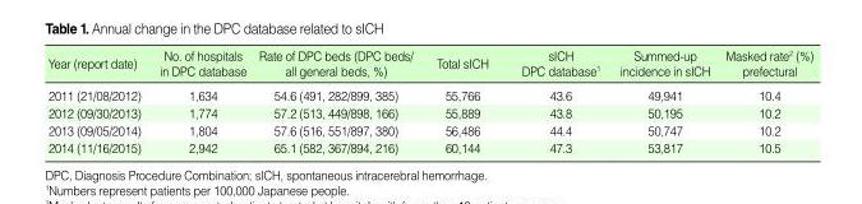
<table><thead><tr><td>Year (report date)</td><td>No. of hospitals in DPC database</td><td>Rate of DPC beds (DPC beds/ all general beds, %)</td><td>Total sICH</td><td>sICH DPC database<sup>1</sup></td><td>Summed-up incidence in sICH</td><td>Masked rate<sup>2</sup> (%) prefectural</td></tr></thead><tbody><tr><td>2011 (21/08/2012)</td><td>1,634</td><td>54.6 (491, 282/899, 385)</td><td>55,766</td><td>43.6</td><td>49,941</td><td>10.4</td></tr><tr><td>2012 (09/30/2013)</td><td>1,774</td><td>57.2 (513, 449/898, 166)</td><td>55,889</td><td>43.8</td><td>50,195</td><td>10.2</td></tr><tr><td>2013 (09/05/2014)</td><td>1,804</td><td>57.6 (516, 551/897, 380)</td><td>56,486</td><td>44.4</td><td>50,747</td><td>10.2</td></tr><tr><td>2014 (11/16/2015)</td><td>2,942</td><td>65.1 (582, 367/894, 216)</td><td>60,144</td><td>47.3</td><td>53,817</td><td>10.5</td></tr></tbody></table>